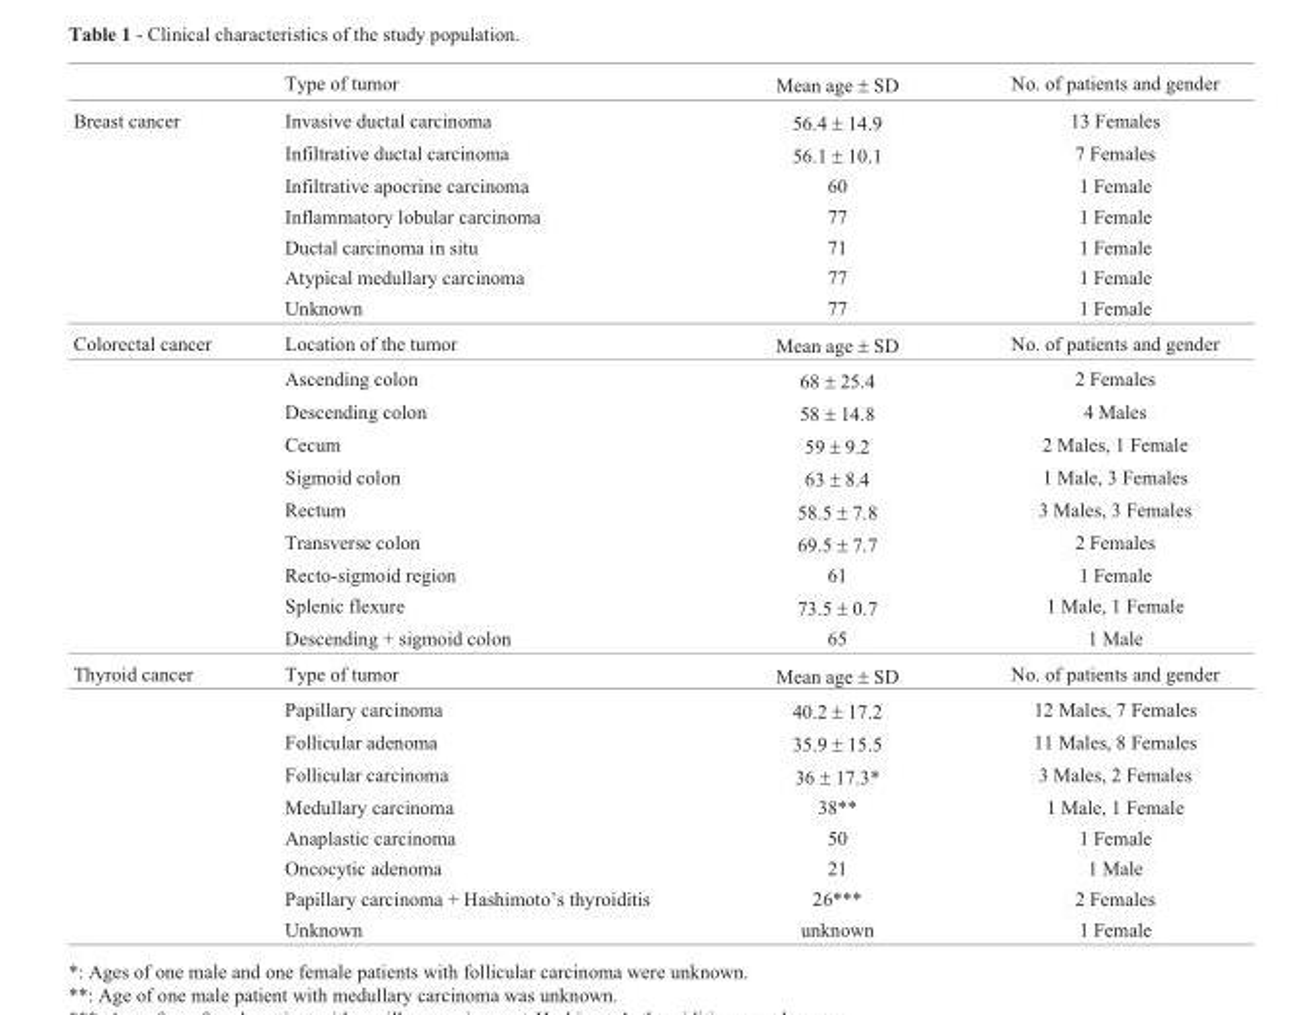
<table><thead><tr><td></td><td>Type of tumor</td><td>Mean age ± SD</td><td>No. of patients and gender</td></tr></thead><tbody><tr><td rowspan="7">Breast cancer</td><td>Invasive ductal carcinoma</td><td>56.4 ± 14.9</td><td>13 Females</td></tr><tr><td>Infiltrative ductal carcinoma</td><td>56.1 ± 10.1</td><td>7 Females</td></tr><tr><td>Infiltrative apocrine carcinoma</td><td>60</td><td>1 Female</td></tr><tr><td>Inflammatory lobular carcinoma</td><td>77</td><td>1 Female</td></tr><tr><td>Ductal carcinoma in situ</td><td>71</td><td>1 Female</td></tr><tr><td>Atypical medullary carcinoma</td><td>77</td><td>1 Female</td></tr><tr><td>Unknown</td><td>77</td><td>1 Female</td></tr><tr><td rowspan="10">Colorectal cancer</td><td>Location of the tumor</td><td>Mean age ± SD</td><td>No. of patients and gender</td></tr><tr><td>Ascending colon</td><td>68 ± 25.4</td><td>2 Females</td></tr><tr><td>Descending colon</td><td>58 ± 14.8</td><td>4 Males</td></tr><tr><td>Cecum</td><td>59 ± 9.2</td><td>2 Males, 1 Female</td></tr><tr><td>Sigmoid colon</td><td>63 ± 8.4</td><td>1 Male, 3 Females</td></tr><tr><td>Rectum</td><td>58.5 ± 7.8</td><td>3 Males, 3 Females</td></tr><tr><td>Transverse colon</td><td>69.5 ± 7.7</td><td>2 Females</td></tr><tr><td>Recto-sigmoid region</td><td>61</td><td>1 Female</td></tr><tr><td>Splenic flexure</td><td>73.5 ± 0.7</td><td>1 Male, 1 Female</td></tr><tr><td>Descending + sigmoid colon</td><td>65</td><td>1 Male</td></tr><tr><td rowspan="9">Thyroid cancer</td><td>Type of tumor</td><td>Mean age ± SD</td><td>No. of patients and gender</td></tr><tr><td>Papillary carcinoma</td><td>40.2 ± 17.2</td><td>12 Males, 7 Females</td></tr><tr><td>Follicular adenoma</td><td>35.9 ± 15.5</td><td>11 Males, 8 Females</td></tr><tr><td>Follicular carcinoma</td><td>36 ± 17.3*</td><td>3 Males, 2 Females</td></tr><tr><td>Medullary carcinoma</td><td>38**</td><td>1 Male, 1 Female</td></tr><tr><td>Anaplastic carcinoma</td><td>50</td><td>1 Female</td></tr><tr><td>Oncocytic adenoma</td><td>21</td><td>1 Male</td></tr><tr><td>Papillary carcinoma + Hashimoto’s thyroiditis</td><td>26***</td><td>2 Females</td></tr><tr><td>Unknown</td><td>unknown</td><td>1 Female</td></tr></tbody></table>